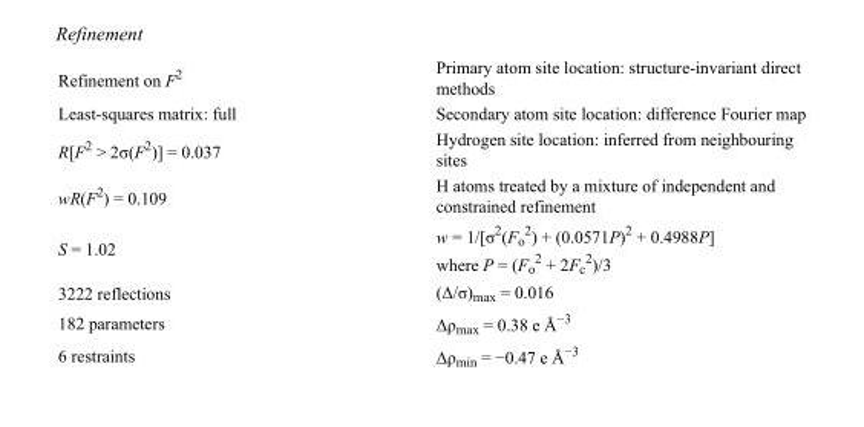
<table><tbody><tr><td>Refinement on F<sup>2</sup></td><td>Primary atom site location: structure-invariant direct methods</td></tr><tr><td>Least-squares matrix: full</td><td>Secondary atom site location: difference Fourier map</td></tr><tr><td>R[F<sup>2</sup> &gt; 2σ(F<sup>2</sup>)] = 0.037</td><td>Hydrogen site location: inferred from neighbouring sites</td></tr><tr><td>wR(F<sup>2</sup>) = 0.109</td><td>H atoms treated by a mixture of independent and constrained refinement</td></tr><tr><td>S = 1.02</td><td>w = 1/[σ<sup>2</sup>(F<sub>o</sub> <sup>2</sup>) + (0.0571P)<sup>2</sup> + 0.4988P] where P = (F<sub>o</sub> <sup>2</sup> + 2F<sub>c</sub> <sup>2</sup>)/3</td></tr><tr><td>3222 reflections</td><td>(Δ/σ)<sub>max</sub> = 0.016</td></tr><tr><td>182 parameters</td><td>Δρ<sub>max</sub> = 0.38 e Å<sup>−3</sup></td></tr><tr><td>6 restraints</td><td>Δρ<sub>min</sub> = −0.47 e Å<sup>−3</sup></td></tr></tbody></table>